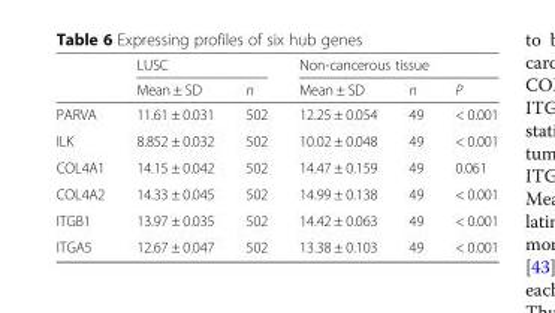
<table><thead><tr><td rowspan="2"></td><td colspan="2">LUSC</td><td colspan="3">Non-cancerous tissue</td></tr><tr><td>Mean ± SD</td><td>n</td><td>Mean ± SD</td><td>n</td><td>P</td></tr></thead><tbody><tr><td>PARVA</td><td>11.61 ± 0.031</td><td>502</td><td>12.25 ± 0.054</td><td>49</td><td>&lt; 0.001</td></tr><tr><td>ILK</td><td>8.852 ± 0.032</td><td>502</td><td>10.02 ± 0.048</td><td>49</td><td>&lt; 0.001</td></tr><tr><td>COL4A1</td><td>14.15 ± 0.042</td><td>502</td><td>14.47 ± 0.159</td><td>49</td><td>0.061</td></tr><tr><td>COL4A2</td><td>14.33 ± 0.045</td><td>502</td><td>14.99 ± 0.138</td><td>49</td><td>&lt; 0.001</td></tr><tr><td>ITGB1</td><td>13.97 ± 0.035</td><td>502</td><td>14.42 ± 0.063</td><td>49</td><td>&lt; 0.001</td></tr><tr><td>ITGA5</td><td>12.67 ± 0.047</td><td>502</td><td>13.38 ± 0.103</td><td>49</td><td>&lt; 0.001</td></tr></tbody></table>